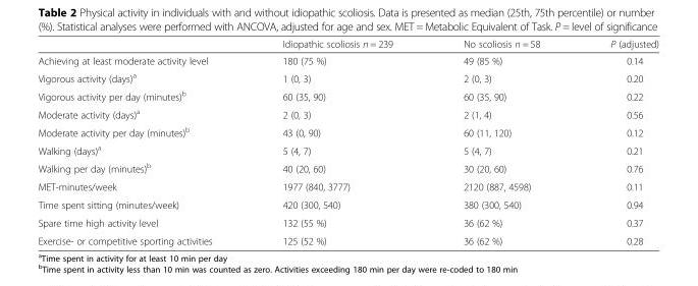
<table><thead><tr><td></td><td>Idiopathic scoliosis n = 239</td><td>No scoliosis n = 58</td><td>P (adjusted)</td></tr></thead><tbody><tr><td>Achieving at least moderate activity level</td><td>180 (75 %)</td><td>49 (85 %)</td><td>0.14</td></tr><tr><td>Vigorous activity (days)<sup>a</sup></td><td>1 (0, 3)</td><td>2 (0, 3)</td><td>0.20</td></tr><tr><td>Vigorous activity per day (minutes)<sup>b</sup></td><td>60 (35, 90)</td><td>60 (35, 90)</td><td>0.22</td></tr><tr><td>Moderate activity (days)<sup>a</sup></td><td>2 (0, 3)</td><td>2 (1, 4)</td><td>0.56</td></tr><tr><td>Moderate activity per day (minutes)<sup>b</sup></td><td>43 (0, 90)</td><td>60 (11, 120)</td><td>0.12</td></tr><tr><td>Walking (days)<sup>a</sup></td><td>5 (4, 7)</td><td>5 (4, 7)</td><td>0.21</td></tr><tr><td>Walking per day (minutes)<sup>b</sup></td><td>40 (20, 60)</td><td>30 (20, 60)</td><td>0.76</td></tr><tr><td>MET-minutes/week</td><td>1977 (840, 3777)</td><td>2120 (887, 4598)</td><td>0.11</td></tr><tr><td>Time spent sitting (minutes/week)</td><td>420 (300, 540)</td><td>380 (300, 540)</td><td>0.94</td></tr><tr><td>Spare time high activity level</td><td>132 (55 %)</td><td>36 (62 %)</td><td>0.37</td></tr><tr><td>Exercise- or competitive sporting activities</td><td>125 (52 %)</td><td>36 (62 %)</td><td>0.28</td></tr></tbody></table>